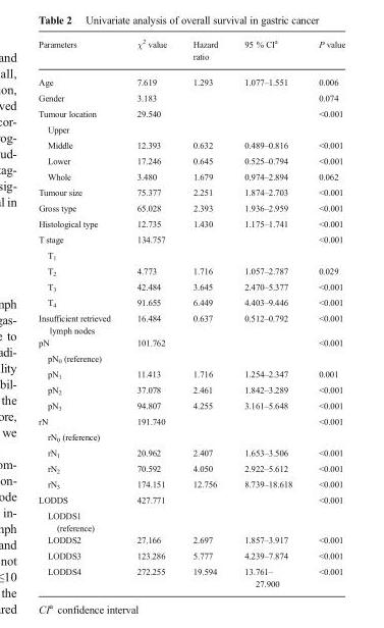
<table><thead><tr><td>Parameters</td><td>χ<sup>2</sup> value</td><td>Hazard ratio</td><td>95 % CI<sup>a</sup></td><td>P value</td></tr></thead><tbody><tr><td>Age</td><td>7.619</td><td>1.293</td><td>1.077–1.551</td><td>0.006</td></tr><tr><td>Gender</td><td>3.183</td><td></td><td></td><td>0.074</td></tr><tr><td>Tumour location</td><td>29.540</td><td></td><td></td><td>&lt;0.001</td></tr><tr><td colspan="5">Upper</td></tr><tr><td>Middle</td><td>12.393</td><td>0.632</td><td>0.489–0.816</td><td>&lt;0.001</td></tr><tr><td>Lower</td><td>17.246</td><td>0.645</td><td>0.525–0.794</td><td>&lt;0.001</td></tr><tr><td>Whole</td><td>3.480</td><td>1.679</td><td>0.974–2.894</td><td>0.062</td></tr><tr><td>Tumour size</td><td>75.377</td><td>2.251</td><td>1.874–2.703</td><td>&lt;0.001</td></tr><tr><td>Gross type</td><td>65.028</td><td>2.393</td><td>1.936–2.959</td><td>&lt;0.001</td></tr><tr><td>Histological type</td><td>12.735</td><td>1.430</td><td>1.175–1.741</td><td>&lt;0.001</td></tr><tr><td>T stage</td><td>134.757</td><td></td><td></td><td>&lt;0.001</td></tr><tr><td colspan="5">T<sub>1</sub></td></tr><tr><td>T<sub>2</sub></td><td>4.773</td><td>1.716</td><td>1.057–2.787</td><td>0.029</td></tr><tr><td>T<sub>3</sub></td><td>42.484</td><td>3.645</td><td>2.470–5.377</td><td>&lt;0.001</td></tr><tr><td>T<sub>4</sub></td><td>91.655</td><td>6.449</td><td>4.403–9.446</td><td>&lt;0.001</td></tr><tr><td>Insufficient retrieved lymph nodes</td><td>16.484</td><td>0.637</td><td>0.512–0.792</td><td>&lt;0.001</td></tr><tr><td>pN</td><td>101.762</td><td></td><td></td><td>&lt;0.001</td></tr><tr><td colspan="5">pN<sub>0</sub> (reference)</td></tr><tr><td>pN<sub>1</sub></td><td>11.413</td><td>1.716</td><td>1.254–2.347</td><td>0.001</td></tr><tr><td>pN<sub>2</sub></td><td>37.078</td><td>2.461</td><td>1.842–3.289</td><td>&lt;0.001</td></tr><tr><td>pN<sub>3</sub></td><td>94.807</td><td>4.255</td><td>3.161–5.648</td><td>&lt;0.001</td></tr><tr><td>rN</td><td>191.740</td><td></td><td></td><td>&lt;0.001</td></tr><tr><td colspan="5">rN<sub>0</sub> (reference)</td></tr><tr><td>rN<sub>1</sub></td><td>20.962</td><td>2.407</td><td>1.653–3.506</td><td>&lt;0.001</td></tr><tr><td>rN<sub>2</sub></td><td>70.592</td><td>4.050</td><td>2.922–5.612</td><td>&lt;0.001</td></tr><tr><td>rN<sub>3</sub></td><td>174.151</td><td>12.756</td><td>8.739–18.618</td><td>&lt;0.001</td></tr><tr><td>LODDS</td><td>427.771</td><td></td><td></td><td>&lt;0.001</td></tr><tr><td colspan="5">LODDS1 (reference)</td></tr><tr><td>LODDS2</td><td>27.166</td><td>2.697</td><td>1.857–3.917</td><td>&lt;0.001</td></tr><tr><td>LODDS3</td><td>123.286</td><td>5.777</td><td>4.239–7.874</td><td>&lt;0.001</td></tr><tr><td>LODDS4</td><td>272.255</td><td>19.594</td><td>13.761– 27.900</td><td>&lt;0.001</td></tr></tbody></table>